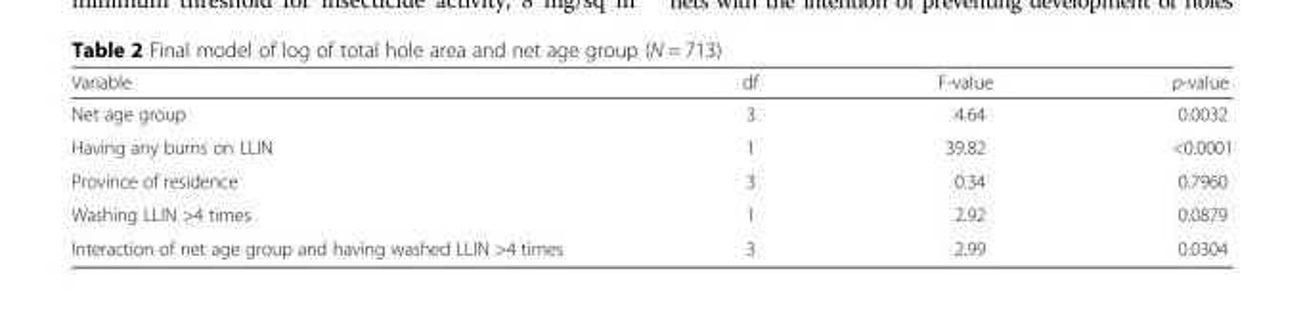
<table><thead><tr><td>Variable</td><td>df</td><td>F-value</td><td>p-value</td></tr></thead><tbody><tr><td>Net age group</td><td>3</td><td>4.64</td><td>0.0032</td></tr><tr><td>Having any burns on LLIN</td><td>1</td><td>39.82</td><td>&lt;0.0001</td></tr><tr><td>Province of residence</td><td>3</td><td>0.34</td><td>0.7960</td></tr><tr><td>Washing LLIN &gt;4 times</td><td>1</td><td>2.92</td><td>0.0879</td></tr><tr><td>Interaction of net age group and having washed LLIN &gt;4 times</td><td>3</td><td>2.99</td><td>0.0304</td></tr></tbody></table>